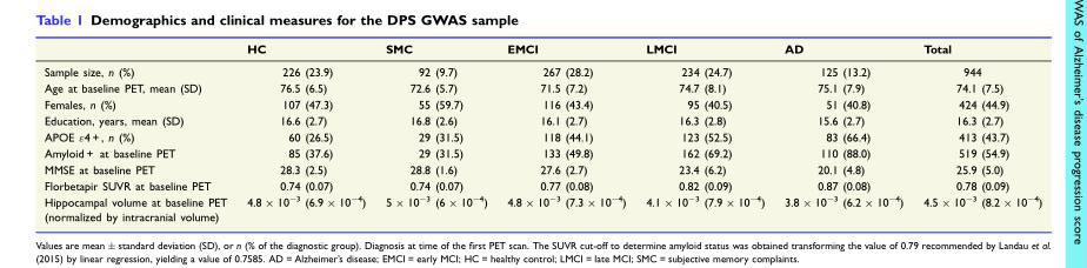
<table><thead><tr><td></td><td>HC</td><td>SMC</td><td>EMCI</td><td>LMCI</td><td>AD</td><td>Total</td></tr></thead><tbody><tr><td>Sample size, n (%)</td><td>226 (23.9)</td><td>92 (9.7)</td><td>267 (28.2)</td><td>234 (24.7)</td><td>125 (13.2)</td><td>944</td></tr><tr><td>Age at baseline PET, mean (SD)</td><td>76.5 (6.5)</td><td>72.6 (5.7)</td><td>71.5 (7.2)</td><td>74.7 (8.1)</td><td>75.1 (7.9)</td><td>74.1 (7.5)</td></tr><tr><td>Females, n (%)</td><td>107 (47.3)</td><td>55 (59.7)</td><td>116 (43.4)</td><td>95 (40.5)</td><td>51 (40.8)</td><td>424 (44.9)</td></tr><tr><td>Education, years, mean (SD)</td><td>16.6 (2.7)</td><td>16.8 (2.6)</td><td>16.1 (2.7)</td><td>16.3 (2.8)</td><td>15.6 (2.7)</td><td>16.3 (2.7)</td></tr><tr><td>APOE &quot;4 + , n (%)</td><td>60 (26.5)</td><td>29 (31.5)</td><td>118 (44.1)</td><td>123 (52.5)</td><td>83 (66.4)</td><td>413 (43.7)</td></tr><tr><td>Amyloid + at baseline PET</td><td>85 (37.6)</td><td>29 (31.5)</td><td>133 (49.8)</td><td>162 (69.2)</td><td>110 (88.0)</td><td>519 (54.9)</td></tr><tr><td>MMSE at baseline PET</td><td>28.3 (2.5)</td><td>28.8 (1.6)</td><td>27.6 (2.7)</td><td>23.4 (6.2)</td><td>20.1 (4.8)</td><td>25.9 (5.0)</td></tr><tr><td>Florbetapir SUVR at baseline PET</td><td>0.74 (0.07)</td><td>0.74 (0.07)</td><td>0.77 (0.08)</td><td>0.82 (0.09)</td><td>0.87 (0.08)</td><td>0.78 (0.09)</td></tr><tr><td>Hippocampal volume at baseline PET (normalized by intracranial volume)</td><td>4.8 × 10<sup>−3</sup> (6.9 × 10<sup>−4</sup>)</td><td>5 × 10<sup>−3</sup> (6 × 10<sup>−4</sup>)</td><td>4.8 × 10<sup>−3</sup> (7.3 × 10<sup>−4</sup>)</td><td>4.1 × 10<sup>−3</sup> (7.9 × 10<sup>−4</sup>)</td><td>3.8 × 10<sup>−3</sup> (6.2 × 10<sup>−4</sup>)</td><td>4.5 × 10<sup>−3</sup> (8.2 × 10<sup>−4</sup>)</td></tr></tbody></table>